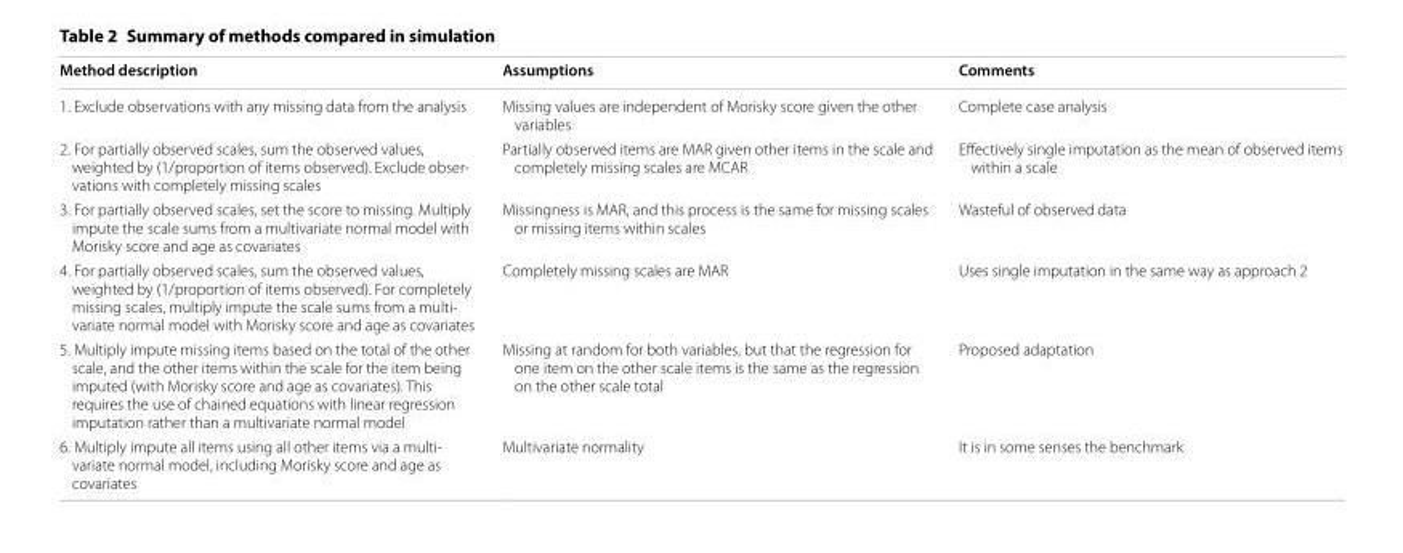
<table><thead><tr><td>Method description</td><td>Assumptions</td><td>Comments</td></tr></thead><tbody><tr><td>1. Exclude observations with any missing data from the analysis</td><td>Missing values are independent of Morisky score given the other variables</td><td>Complete case analysis</td></tr><tr><td>2. For partially observed scales, sum the observed values, weighted by (1/proportion of items observed). Exclude obser- vations with completely missing scales</td><td>Partially observed items are MAR given other items in the scale and completely missing scales are MCAR</td><td>Effectively single imputation as the mean of observed items within a scale</td></tr><tr><td>3. For partially observed scales, set the score to missing. Multiply impute the scale sums from a multivariate normal model with Morisky score and age as covariates</td><td>Missingness is MAR, and this process is the same for missing scales or missing items within scales</td><td>Wasteful of observed data</td></tr><tr><td>4. For partially observed scales, sum the observed values, weighted by (1/proportion of items observed). For completely missing scales, multiply impute the scale sums from a multi- variate normal model with Morisky score and age as covariates</td><td>Completely missing scales are MAR</td><td>Uses single imputation in the same way as approach 2</td></tr><tr><td>5. Multiply impute missing items based on the total of the other scale, and the other items within the scale for the item being imputed (with Morisky score and age as covariates). This requires the use of chained equations with linear regression imputation rather than a multivariate normal model</td><td>Missing at random for both variables, but that the regression for one item on the other scale items is the same as the regression on the other scale total</td><td>Proposed adaptation</td></tr><tr><td>6. Multiply impute all items using all other items via a multi- variate normal model, including Morisky score and age as covariates</td><td>Multivariate normality</td><td>It is in some senses the benchmark</td></tr></tbody></table>